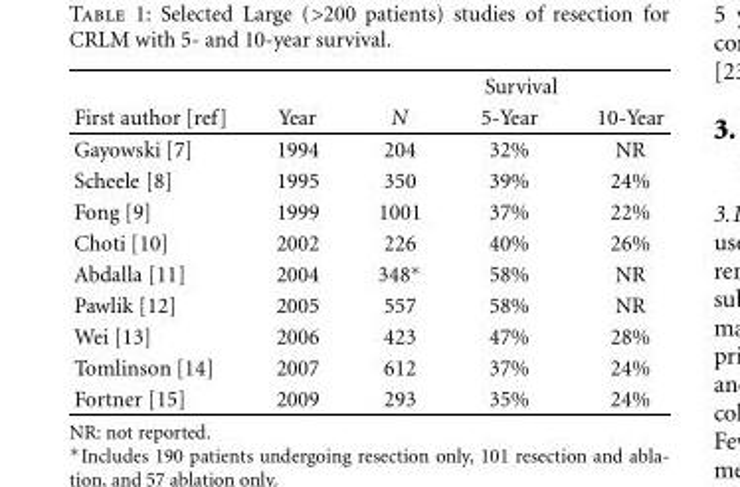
<table><thead><tr><td rowspan="2">First author [ref]</td><td rowspan="2">Year</td><td colspan="3">Survival</td></tr><tr><td>N</td><td>5-Year</td><td>10-Year</td></tr></thead><tbody><tr><td>Gayowski [7]</td><td>1994</td><td>204</td><td>32%</td><td>NR</td></tr><tr><td>Scheele [8]</td><td>1995</td><td>350</td><td>39%</td><td>24%</td></tr><tr><td>Fong [9]</td><td>1999</td><td>1001</td><td>37%</td><td>22%</td></tr><tr><td>Choti [10]</td><td>2002</td><td>226</td><td>40%</td><td>26%</td></tr><tr><td>Abdalla [11]</td><td>2004</td><td>348∗</td><td>58%</td><td>NR</td></tr><tr><td>Pawlik [12]</td><td>2005</td><td>557</td><td>58%</td><td>NR</td></tr><tr><td>Wei [13]</td><td>2006</td><td>423</td><td>47%</td><td>28%</td></tr><tr><td>Tomlinson [14]</td><td>2007</td><td>612</td><td>37%</td><td>24%</td></tr><tr><td>Fortner [15]</td><td>2009</td><td>293</td><td>35%</td><td>24%</td></tr></tbody></table>